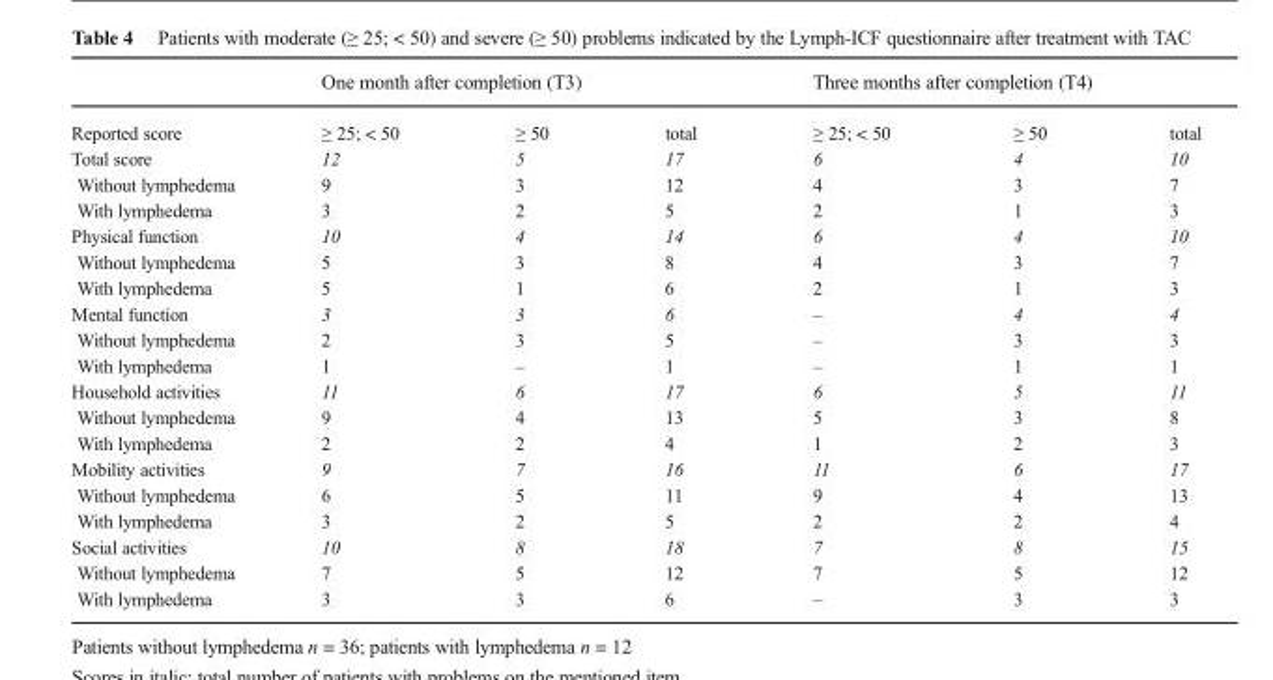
<table><thead><tr><td rowspan="2">Reported score</td><td colspan="3">One month after completion (T3)</td><td colspan="3">Three months after completion (T4)</td></tr><tr><td>≥ 25; &lt; 50</td><td>≥ 50</td><td>total</td><td>≥ 25; &lt; 50</td><td>≥ 50</td><td>total</td></tr></thead><tbody><tr><td>Total score</td><td>12</td><td>5</td><td>17</td><td>6</td><td>4</td><td>10</td></tr><tr><td>Without lymphedema</td><td>9</td><td>3</td><td>12</td><td>4</td><td>3</td><td>7</td></tr><tr><td>With lymphedema</td><td>3</td><td>2</td><td>5</td><td>2</td><td>1</td><td>3</td></tr><tr><td>Physical function</td><td>10</td><td>4</td><td>14</td><td>6</td><td>4</td><td>10</td></tr><tr><td>Without lymphedema</td><td>5</td><td>3</td><td>8</td><td>4</td><td>3</td><td>7</td></tr><tr><td>With lymphedema</td><td>5</td><td>1</td><td>6</td><td>2</td><td>1</td><td>3</td></tr><tr><td>Mental function</td><td>3</td><td>3</td><td>6</td><td>–</td><td>4</td><td>4</td></tr><tr><td>Without lymphedema</td><td>2</td><td>3</td><td>5</td><td>–</td><td>3</td><td>3</td></tr><tr><td>With lymphedema</td><td>1</td><td>–</td><td>1</td><td>–</td><td>1</td><td>1</td></tr><tr><td>Household activities</td><td>11</td><td>6</td><td>17</td><td>6</td><td>5</td><td>11</td></tr><tr><td>Without lymphedema</td><td>9</td><td>4</td><td>13</td><td>5</td><td>3</td><td>8</td></tr><tr><td>With lymphedema</td><td>2</td><td>2</td><td>4</td><td>1</td><td>2</td><td>3</td></tr><tr><td>Mobility activities</td><td>9</td><td>7</td><td>16</td><td>11</td><td>6</td><td>17</td></tr><tr><td>Without lymphedema</td><td>6</td><td>5</td><td>11</td><td>9</td><td>4</td><td>13</td></tr><tr><td>With lymphedema</td><td>3</td><td>2</td><td>5</td><td>2</td><td>2</td><td>4</td></tr><tr><td>Social activities</td><td>10</td><td>8</td><td>18</td><td>7</td><td>8</td><td>15</td></tr><tr><td>Without lymphedema</td><td>7</td><td>5</td><td>12</td><td>7</td><td>5</td><td>12</td></tr><tr><td>With lymphedema</td><td>3</td><td>3</td><td>6</td><td>–</td><td>3</td><td>3</td></tr></tbody></table>